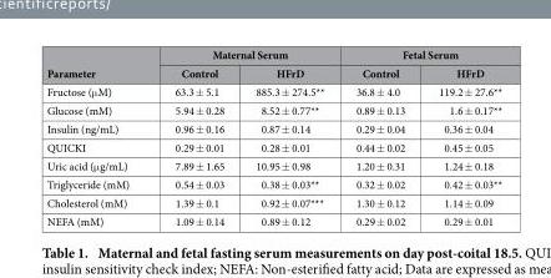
<table><thead><tr><td rowspan="2">Parameter</td><td colspan="2">Maternal Serum</td><td colspan="2">Fetal Serum</td></tr><tr><td>Control</td><td>HFrD</td><td>Control</td><td>HFrD</td></tr></thead><tbody><tr><td>Fructose (μ M)</td><td>63.3 ± 5.1</td><td>885.3 ± 274.5**</td><td>36.8 ± 4.0</td><td>119.2 ± 27.6**</td></tr><tr><td>Glucose (mM)</td><td>5.94 ± 0.28</td><td>8.52 ± 0.77**</td><td>0.89 ± 0.13</td><td>1.6 ± 0.17**</td></tr><tr><td>Insulin (ng/mL)</td><td>0.96 ± 0.16</td><td>0.87 ± 0.14</td><td>0.29 ± 0.04</td><td>0.36 ± 0.04</td></tr><tr><td>QUICKI</td><td>0.29 ± 0.01</td><td>0.28 ± 0.01</td><td>0.44 ± 0.02</td><td>0.45 ± 0.05</td></tr><tr><td>Uric acid (μ g/mL)</td><td>7.89 ± 1.65</td><td>10.95 ± 0.98</td><td>1.20 ± 0.31</td><td>1.24 ± 0.18</td></tr><tr><td>Triglyceride (mM)</td><td>0.54 ± 0.03</td><td>0.38 ± 0.03**</td><td>0.32 ± 0.02</td><td>0.42 ± 0.03**</td></tr><tr><td>Cholesterol (mM)</td><td>1.39 ± 0.1</td><td>0.92 ± 0.07***</td><td>1.30 ± 0.12</td><td>1.14 ± 0.09</td></tr><tr><td>NEFA (mM)</td><td>1.09 ± 0.14</td><td>0.89 ± 0.12</td><td>0.29 ± 0.02</td><td>0.29 ± 0.01</td></tr></tbody></table>